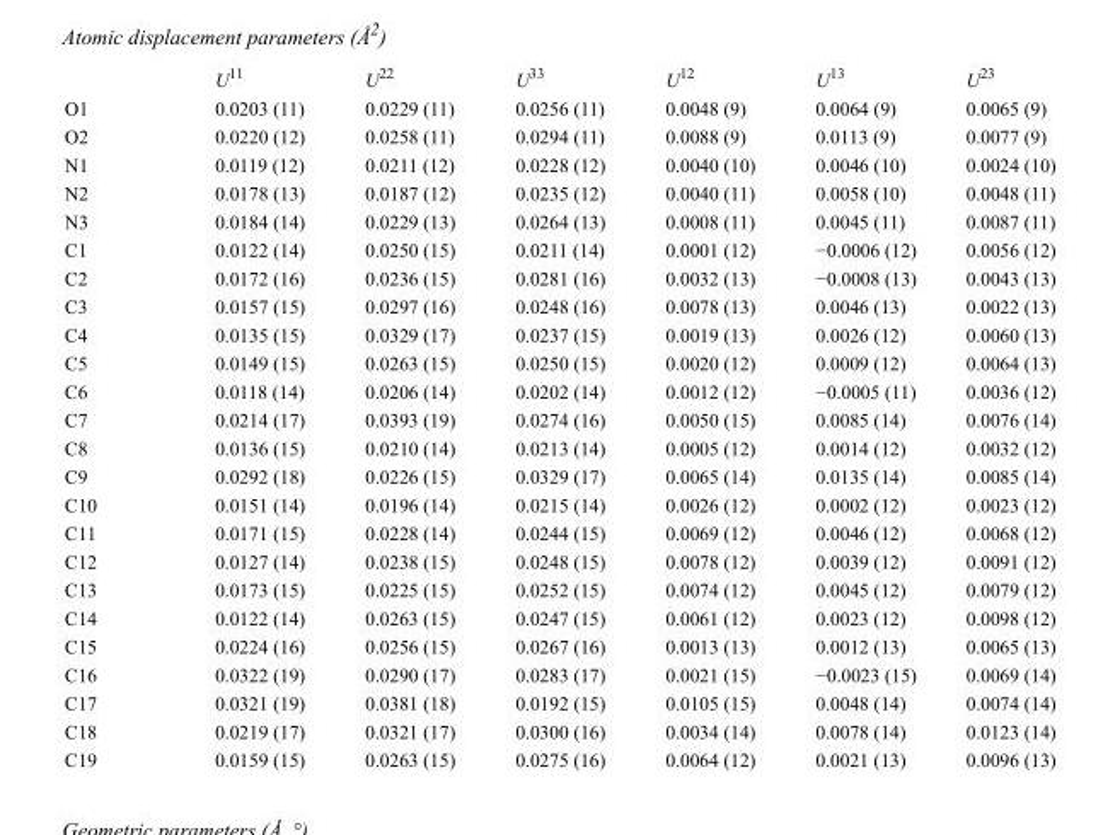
<table><thead><tr><td></td><td>U<sup>11</sup></td><td>U<sup>22</sup></td><td>U<sup>33</sup></td><td>U<sup>12</sup></td><td>U<sup>13</sup></td><td>U<sup>23</sup></td></tr></thead><tbody><tr><td>O1</td><td>0.0203 (11)</td><td>0.0229 (11)</td><td>0.0256 (11)</td><td>0.0048 (9)</td><td>0.0064 (9)</td><td>0.0065 (9)</td></tr><tr><td>O2</td><td>0.0220 (12)</td><td>0.0258 (11)</td><td>0.0294 (11)</td><td>0.0088 (9)</td><td>0.0113 (9)</td><td>0.0077 (9)</td></tr><tr><td>N1</td><td>0.0119 (12)</td><td>0.0211 (12)</td><td>0.0228 (12)</td><td>0.0040 (10)</td><td>0.0046 (10)</td><td>0.0024 (10)</td></tr><tr><td>N2</td><td>0.0178 (13)</td><td>0.0187 (12)</td><td>0.0235 (12)</td><td>0.0040 (11)</td><td>0.0058 (10)</td><td>0.0048 (11)</td></tr><tr><td>N3</td><td>0.0184 (14)</td><td>0.0229 (13)</td><td>0.0264 (13)</td><td>0.0008 (11)</td><td>0.0045 (11)</td><td>0.0087 (11)</td></tr><tr><td>C1</td><td>0.0122 (14)</td><td>0.0250 (15)</td><td>0.0211 (14)</td><td>0.0001 (12)</td><td>−0.0006 (12)</td><td>0.0056 (12)</td></tr><tr><td>C2</td><td>0.0172 (16)</td><td>0.0236 (15)</td><td>0.0281 (16)</td><td>0.0032 (13)</td><td>−0.0008 (13)</td><td>0.0043 (13)</td></tr><tr><td>C3</td><td>0.0157 (15)</td><td>0.0297 (16)</td><td>0.0248 (16)</td><td>0.0078 (13)</td><td>0.0046 (13)</td><td>0.0022 (13)</td></tr><tr><td>C4</td><td>0.0135 (15)</td><td>0.0329 (17)</td><td>0.0237 (15)</td><td>0.0019 (13)</td><td>0.0026 (12)</td><td>0.0060 (13)</td></tr><tr><td>C5</td><td>0.0149 (15)</td><td>0.0263 (15)</td><td>0.0250 (15)</td><td>0.0020 (12)</td><td>0.0009 (12)</td><td>0.0064 (13)</td></tr><tr><td>C6</td><td>0.0118 (14)</td><td>0.0206 (14)</td><td>0.0202 (14)</td><td>0.0012 (12)</td><td>−0.0005 (11)</td><td>0.0036 (12)</td></tr><tr><td>C7</td><td>0.0214 (17)</td><td>0.0393 (19)</td><td>0.0274 (16)</td><td>0.0050 (15)</td><td>0.0085 (14)</td><td>0.0076 (14)</td></tr><tr><td>C8</td><td>0.0136 (15)</td><td>0.0210 (14)</td><td>0.0213 (14)</td><td>0.0005 (12)</td><td>0.0014 (12)</td><td>0.0032 (12)</td></tr><tr><td>C9</td><td>0.0292 (18)</td><td>0.0226 (15)</td><td>0.0329 (17)</td><td>0.0065 (14)</td><td>0.0135 (14)</td><td>0.0085 (14)</td></tr><tr><td>C10</td><td>0.0151 (14)</td><td>0.0196 (14)</td><td>0.0215 (14)</td><td>0.0026 (12)</td><td>0.0002 (12)</td><td>0.0023 (12)</td></tr><tr><td>C11</td><td>0.0171 (15)</td><td>0.0228 (14)</td><td>0.0244 (15)</td><td>0.0069 (12)</td><td>0.0046 (12)</td><td>0.0068 (12)</td></tr><tr><td>C12</td><td>0.0127 (14)</td><td>0.0238 (15)</td><td>0.0248 (15)</td><td>0.0078 (12)</td><td>0.0039 (12)</td><td>0.0091 (12)</td></tr><tr><td>C13</td><td>0.0173 (15)</td><td>0.0225 (15)</td><td>0.0252 (15)</td><td>0.0074 (12)</td><td>0.0045 (12)</td><td>0.0079 (12)</td></tr><tr><td>C14</td><td>0.0122 (14)</td><td>0.0263 (15)</td><td>0.0247 (15)</td><td>0.0061 (12)</td><td>0.0023 (12)</td><td>0.0098 (12)</td></tr><tr><td>C15</td><td>0.0224 (16)</td><td>0.0256 (15)</td><td>0.0267 (16)</td><td>0.0013 (13)</td><td>0.0012 (13)</td><td>0.0065 (13)</td></tr><tr><td>C16</td><td>0.0322 (19)</td><td>0.0290 (17)</td><td>0.0283 (17)</td><td>0.0021 (15)</td><td>−0.0023 (15)</td><td>0.0069 (14)</td></tr><tr><td>C17</td><td>0.0321 (19)</td><td>0.0381 (18)</td><td>0.0192 (15)</td><td>0.0105 (15)</td><td>0.0048 (14)</td><td>0.0074 (14)</td></tr><tr><td>C18</td><td>0.0219 (17)</td><td>0.0321 (17)</td><td>0.0300 (16)</td><td>0.0034 (14)</td><td>0.0078 (14)</td><td>0.0123 (14)</td></tr><tr><td>C19</td><td>0.0159 (15)</td><td>0.0263 (15)</td><td>0.0275 (16)</td><td>0.0064 (12)</td><td>0.0021 (13)</td><td>0.0096 (13)</td></tr></tbody></table>